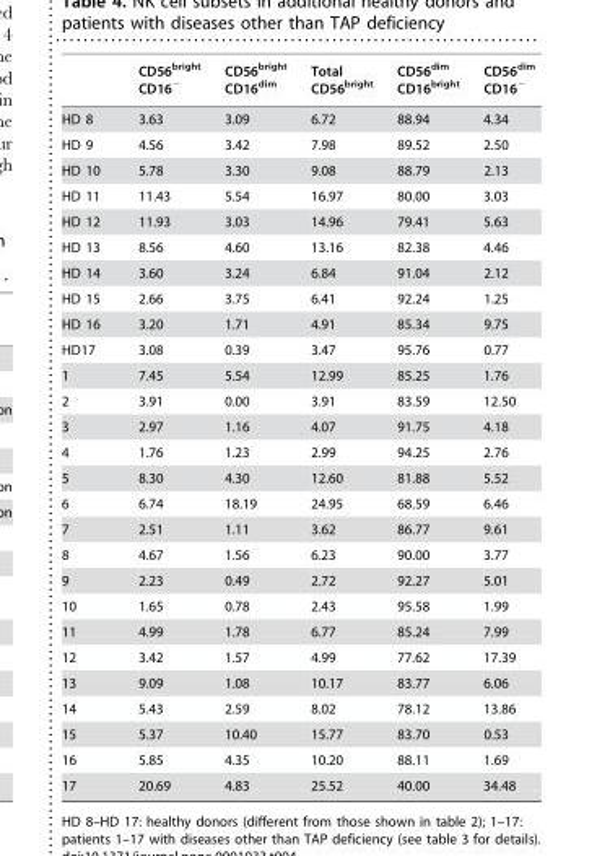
<table><thead><tr><td></td><td>CD56<sup>bright</sup> CD16<sup>−</sup></td><td>CD56<sup>bright</sup> CD16<sup>dim</sup></td><td>Total CD56<sup>bright</sup></td><td>CD56<sup>dim</sup> CD16<sup>bright</sup></td><td>CD56<sup>dim</sup> CD16<sup>−</sup></td></tr></thead><tbody><tr><td>HD 8</td><td>3.63</td><td>3.09</td><td>6.72</td><td>88.94</td><td>4.34</td></tr><tr><td>HD 9</td><td>4.56</td><td>3.42</td><td>7.98</td><td>89.52</td><td>2.50</td></tr><tr><td>HD 10</td><td>5.78</td><td>3.30</td><td>9.08</td><td>88.79</td><td>2.13</td></tr><tr><td>HD 11</td><td>11.43</td><td>5.54</td><td>16.97</td><td>80.00</td><td>3.03</td></tr><tr><td>HD 12</td><td>11.93</td><td>3.03</td><td>14.96</td><td>79.41</td><td>5.63</td></tr><tr><td>HD 13</td><td>8.56</td><td>4.60</td><td>13.16</td><td>82.38</td><td>4.46</td></tr><tr><td>HD 14</td><td>3.60</td><td>3.24</td><td>6.84</td><td>91.04</td><td>2.12</td></tr><tr><td>HD 15</td><td>2.66</td><td>3.75</td><td>6.41</td><td>92.24</td><td>1.25</td></tr><tr><td>HD 16</td><td>3.20</td><td>1.71</td><td>4.91</td><td>85.34</td><td>9.75</td></tr><tr><td>HD17</td><td>3.08</td><td>0.39</td><td>3.47</td><td>95.76</td><td>0.77</td></tr><tr><td>1</td><td>7.45</td><td>5.54</td><td>12.99</td><td>85.25</td><td>1.76</td></tr><tr><td>2</td><td>3.91</td><td>0.00</td><td>3.91</td><td>83.59</td><td>12.50</td></tr><tr><td>3</td><td>2.97</td><td>1.16</td><td>4.07</td><td>91.75</td><td>4.18</td></tr><tr><td>4</td><td>1.76</td><td>1.23</td><td>2.99</td><td>94.25</td><td>2.76</td></tr><tr><td>5</td><td>8.30</td><td>4.30</td><td>12.60</td><td>81.88</td><td>5.52</td></tr><tr><td>6</td><td>6.74</td><td>18.19</td><td>24.95</td><td>68.59</td><td>6.46</td></tr><tr><td>7</td><td>2.51</td><td>1.11</td><td>3.62</td><td>86.77</td><td>9.61</td></tr><tr><td>8</td><td>4.67</td><td>1.56</td><td>6.23</td><td>90.00</td><td>3.77</td></tr><tr><td>9</td><td>2.23</td><td>0.49</td><td>2.72</td><td>92.27</td><td>5.01</td></tr><tr><td>10</td><td>1.65</td><td>0.78</td><td>2.43</td><td>95.58</td><td>1.99</td></tr><tr><td>11</td><td>4.99</td><td>1.78</td><td>6.77</td><td>85.24</td><td>7.99</td></tr><tr><td>12</td><td>3.42</td><td>1.57</td><td>4.99</td><td>77.62</td><td>17.39</td></tr><tr><td>13</td><td>9.09</td><td>1.08</td><td>10.17</td><td>83.77</td><td>6.06</td></tr><tr><td>14</td><td>5.43</td><td>2.59</td><td>8.02</td><td>78.12</td><td>13.86</td></tr><tr><td>15</td><td>5.37</td><td>10.40</td><td>15.77</td><td>83.70</td><td>0.53</td></tr><tr><td>16</td><td>5.85</td><td>4.35</td><td>10.20</td><td>88.11</td><td>1.69</td></tr><tr><td>17</td><td>20.69</td><td>4.83</td><td>25.52</td><td>40.00</td><td>34.48</td></tr></tbody></table>